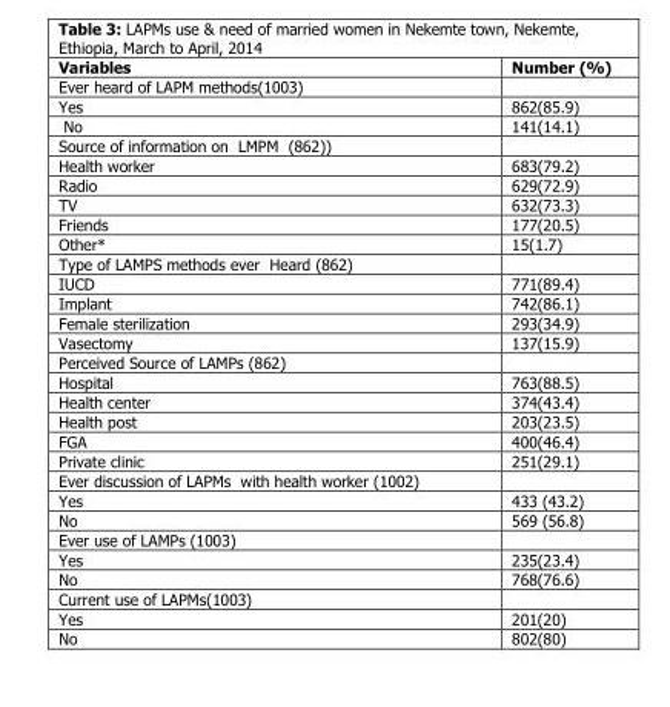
<table><thead><tr><td>Variables</td><td>Number (%)</td></tr></thead><tbody><tr><td colspan="2">Ever heard of LAPM methods(1003)</td></tr><tr><td>Yes</td><td>862(85.9)</td></tr><tr><td>No</td><td>141(14.1)</td></tr><tr><td colspan="2">Source of information on LMPM (862))</td></tr><tr><td>Health worker</td><td>683(79.2)</td></tr><tr><td>Radio</td><td>629(72.9)</td></tr><tr><td>TV</td><td>632(73.3)</td></tr><tr><td>Friends</td><td>177(20.5)</td></tr><tr><td>Other*</td><td>15(1.7)</td></tr><tr><td colspan="2">Type of LAMPS methods ever Heard (862)</td></tr><tr><td>IUCD</td><td>771(89.4)</td></tr><tr><td>Implant</td><td>742(86.1)</td></tr><tr><td>Female sterilization</td><td>293(34.9)</td></tr><tr><td>Vasectomy</td><td>137(15.9)</td></tr><tr><td colspan="2">Perceived Source of LAMPs (862)</td></tr><tr><td>Hospital</td><td>763(88.5)</td></tr><tr><td>Health center</td><td>374(43.4)</td></tr><tr><td>Health post</td><td>203(23.5)</td></tr><tr><td>FGA</td><td>400(46.4)</td></tr><tr><td>Private clinic</td><td>251(29.1)</td></tr><tr><td colspan="2">Ever discussion of LAPMs with health worker (1002)</td></tr><tr><td>Yes</td><td>433 (43.2)</td></tr><tr><td>No</td><td>569 (56.8)</td></tr><tr><td colspan="2">Ever use of LAMPs (1003)</td></tr><tr><td>Yes</td><td>235(23.4)</td></tr><tr><td>No</td><td>768(76.6)</td></tr><tr><td colspan="2">Current use of LAPMs(1003)</td></tr><tr><td>Yes</td><td>201(20)</td></tr><tr><td>No</td><td>802(80)</td></tr></tbody></table>